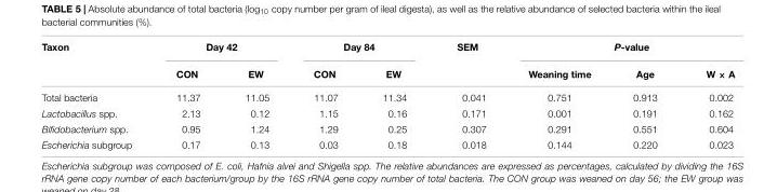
<table><thead><tr><td rowspan="2">Taxon</td><td colspan="2">Day 42</td><td colspan="2">Day 84</td><td rowspan="2">SEM</td><td colspan="3">P-value</td></tr><tr><td>CON</td><td>EW</td><td>CON</td><td>EW</td><td>Weaning time</td><td>Age</td><td>W × A</td></tr></thead><tbody><tr><td>Total bacteria</td><td>11.37</td><td>11.05</td><td>11.07</td><td>11.34</td><td>0.041</td><td>0.751</td><td>0.913</td><td>0.002</td></tr><tr><td>Lactobacillus spp.</td><td>2.13</td><td>0.12</td><td>1.15</td><td>0.16</td><td>0.171</td><td>0.001</td><td>0.191</td><td>0.162</td></tr><tr><td>Bifidobacterium spp.</td><td>0.95</td><td>1.24</td><td>1.29</td><td>0.25</td><td>0.307</td><td>0.291</td><td>0.551</td><td>0.604</td></tr><tr><td>Escherichia subgroup</td><td>0.17</td><td>0.13</td><td>0.03</td><td>0.18</td><td>0.018</td><td>0.144</td><td>0.220</td><td>0.023</td></tr></tbody></table>